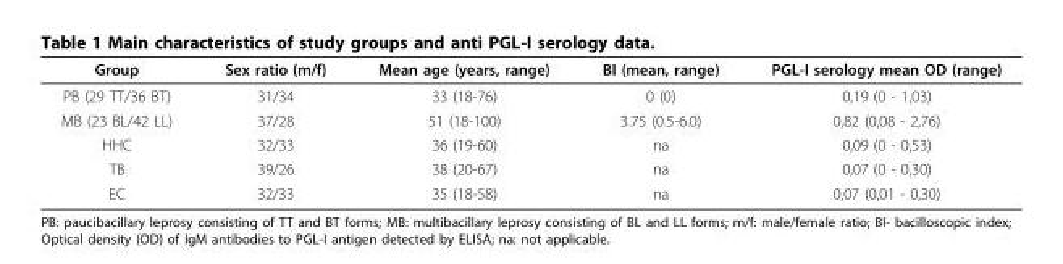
<table><thead><tr><td>Group</td><td>Sex ratio (m/f)</td><td>Mean age (years, range)</td><td>BI (mean, range)</td><td>PGL-I serology mean OD (range)</td></tr></thead><tbody><tr><td>PB (29 TT/36 BT)</td><td>31/34</td><td>33 (18-76)</td><td>0 (0)</td><td>0,19 (0 - 1,03)</td></tr><tr><td>MB (23 BL/42 LL)</td><td>37/28</td><td>51 (18-100)</td><td>3.75 (0.5-6.0)</td><td>0,82 (0,08 - 2,76)</td></tr><tr><td>HHC</td><td>32/33</td><td>36 (19-60)</td><td>na</td><td>0,09 (0 - 0,53)</td></tr><tr><td>TB</td><td>39/26</td><td>38 (20-67)</td><td>na</td><td>0,07 (0 - 0,30)</td></tr><tr><td>EC</td><td>32/33</td><td>35 (18-58)</td><td>na</td><td>0,07 (0,01 - 0,30)</td></tr></tbody></table>